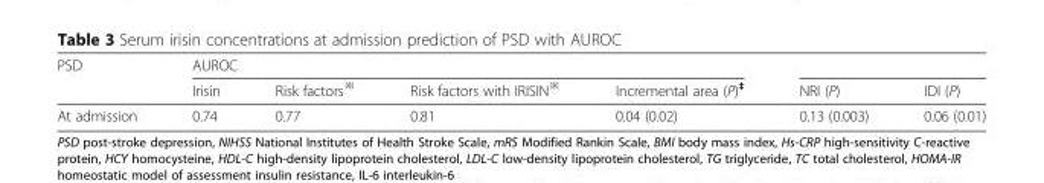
<table><thead><tr><td rowspan="2">PSD</td><td colspan="4">AUROC</td><td rowspan="2">NRI (P)</td><td rowspan="2">IDI (P)</td></tr><tr><td>Irisin</td><td>Risk factors<sup>※</sup></td><td>Risk factors with IRISIN<sup>※</sup></td><td>Incremental area (P)<sup>‡</sup></td></tr></thead><tbody><tr><td>At admission</td><td>0.74</td><td>0.77</td><td>0.81</td><td>0.04 (0.02)</td><td>0.13 (0.003)</td><td>0.06 (0.01)</td></tr></tbody></table>